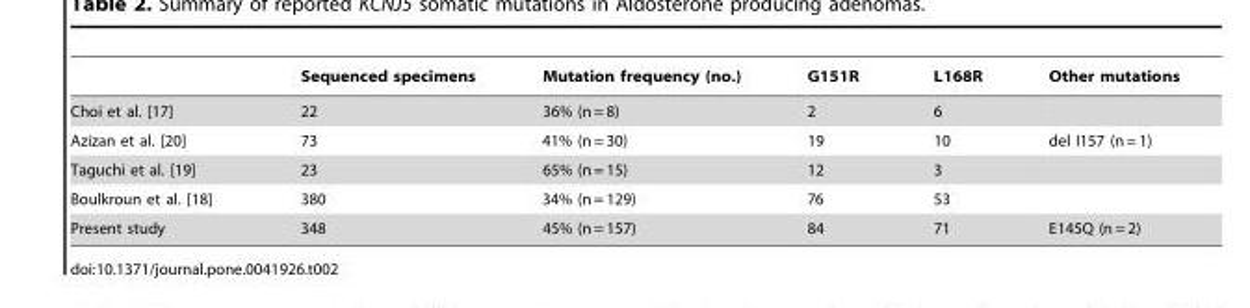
<table><thead><tr><td></td><td>Sequenced specimens</td><td>Mutation frequency (no.)</td><td>G151R</td><td>L168R</td><td>Other mutations</td></tr></thead><tbody><tr><td>Choi et al. [17]</td><td>22</td><td>36% (n = 8)</td><td>2</td><td>6</td><td></td></tr><tr><td>Azizan et al. [20]</td><td>73</td><td>41% (n = 30)</td><td>19</td><td>10</td><td>del I157 (n = 1)</td></tr><tr><td>Taguchi et al. [19]</td><td>23</td><td>65% (n = 15)</td><td>12</td><td>3</td><td></td></tr><tr><td>Boulkroun et al. [18]</td><td>380</td><td>34% (n = 129)</td><td>76</td><td>53</td><td></td></tr><tr><td>Present study</td><td>348</td><td>45% (n = 157)</td><td>84</td><td>71</td><td>E145Q (n = 2)</td></tr></tbody></table>